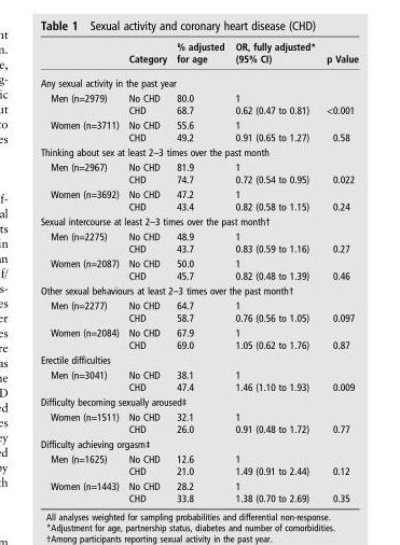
<table><thead><tr><td></td><td>Category</td><td>% adjusted for age</td><td>OR, fully adjusted* (95% CI)</td><td>p Value</td></tr></thead><tbody><tr><td colspan="5">Any sexual activity in the past year</td></tr><tr><td rowspan="2">Men (n=2979)</td><td>No CHD</td><td>80.0</td><td>1</td><td></td></tr><tr><td>CHD</td><td>68.7</td><td>0.62 (0.47 to 0.81)</td><td>&lt;0.001</td></tr><tr><td rowspan="2">Women (n=3711)</td><td>No CHD</td><td>55.6</td><td>1</td><td></td></tr><tr><td>CHD</td><td>49.2</td><td>0.91 (0.65 to 1.27)</td><td>0.58</td></tr><tr><td colspan="5">Thinking about sex at least 2–3 times over the past month</td></tr><tr><td rowspan="2">Men (n=2967)</td><td>No CHD</td><td>81.9</td><td>1</td><td></td></tr><tr><td>CHD</td><td>74.7</td><td>0.72 (0.54 to 0.95)</td><td>0.022</td></tr><tr><td rowspan="2">Women (n=3692)</td><td>No CHD</td><td>47.2</td><td>1</td><td></td></tr><tr><td>CHD</td><td>43.4</td><td>0.82 (0.58 to 1.15)</td><td>0.24</td></tr><tr><td colspan="5">Sexual intercourse at least 2–3 times over the past month†</td></tr><tr><td rowspan="2">Men (n=2275)</td><td>No CHD</td><td>48.9</td><td>1</td><td></td></tr><tr><td>CHD</td><td>43.7</td><td>0.83 (0.59 to 1.16)</td><td>0.27</td></tr><tr><td rowspan="2">Women (n=2087)</td><td>No CHD</td><td>50.0</td><td>1</td><td></td></tr><tr><td>CHD</td><td>45.7</td><td>0.82 (0.48 to 1.39)</td><td>0.46</td></tr><tr><td colspan="5">Other sexual behaviours at least 2–3 times over the past month†</td></tr><tr><td rowspan="2">Men (n=2277)</td><td>No CHD</td><td>64.7</td><td>1</td><td></td></tr><tr><td>CHD</td><td>58.7</td><td>0.76 (0.56 to 1.05)</td><td>0.097</td></tr><tr><td rowspan="2">Women (n=2084)</td><td>No CHD</td><td>67.9</td><td>1</td><td></td></tr><tr><td>CHD</td><td>69.0</td><td>1.05 (0.62 to 1.76)</td><td>0.87</td></tr><tr><td colspan="5">Erectile difficulties</td></tr><tr><td rowspan="2">Men (n=3041)</td><td>No CHD</td><td>38.1</td><td>1</td><td></td></tr><tr><td>CHD</td><td>47.4</td><td>1.46 (1.10 to 1.93)</td><td>0.009</td></tr><tr><td colspan="5">Difficulty becoming sexually aroused‡</td></tr><tr><td rowspan="2">Women (n=1511)</td><td>No CHD</td><td>32.1</td><td>1</td><td></td></tr><tr><td>CHD</td><td>26.0</td><td>0.91 (0.48 to 1.72)</td><td>0.77</td></tr><tr><td colspan="5">Difficulty achieving orgasm‡</td></tr><tr><td rowspan="2">Men (n=1625)</td><td>No CHD</td><td>12.6</td><td>1</td><td></td></tr><tr><td>CHD</td><td>21.0</td><td>1.49 (0.91 to 2.44)</td><td>0.12</td></tr><tr><td rowspan="2">Women (n=1443)</td><td>No CHD</td><td>28.2</td><td>1</td><td></td></tr><tr><td>CHD</td><td>33.8</td><td>1.38 (0.70 to 2.69)</td><td>0.35</td></tr></tbody></table>